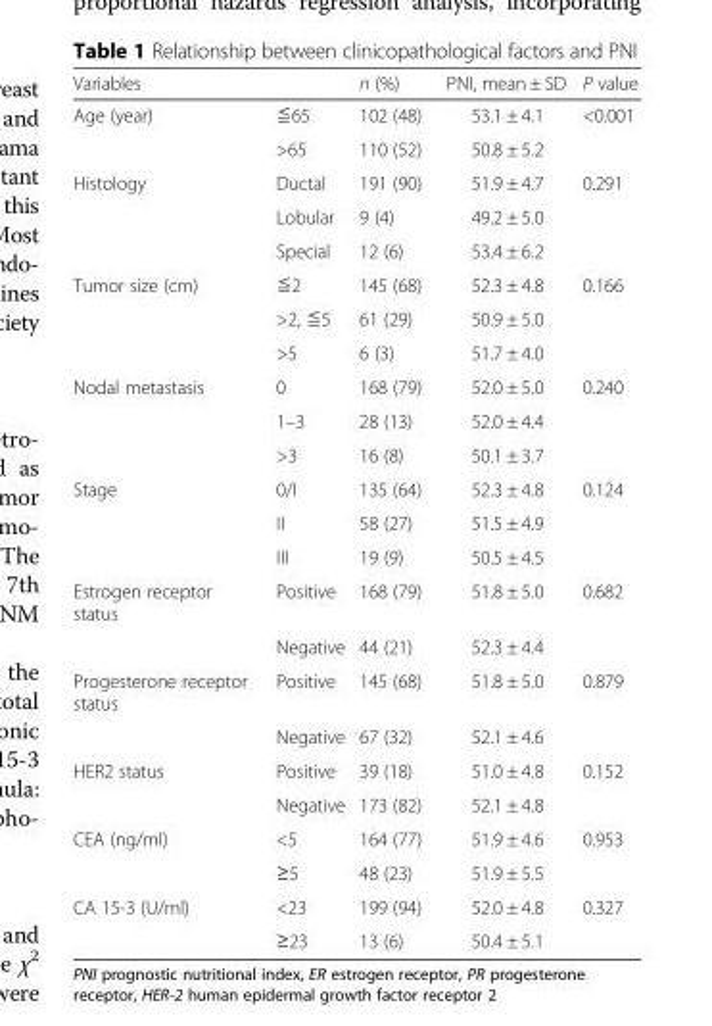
<table><thead><tr><td>Variables</td><td></td><td>n (%)</td><td>PNI, mean ± SD</td><td>P value</td></tr></thead><tbody><tr><td rowspan="2">Age (year)</td><td>≦65</td><td>102 (48)</td><td>53.1 ± 4.1</td><td>&lt;0.001</td></tr><tr><td>&gt;65</td><td>110 (52)</td><td>50.8 ± 5.2</td><td></td></tr><tr><td rowspan="3">Histology</td><td>Ductal</td><td>191 (90)</td><td>51.9 ± 4.7</td><td>0.291</td></tr><tr><td>Lobular</td><td>9 (4)</td><td>49.2 ± 5.0</td><td></td></tr><tr><td>Special</td><td>12 (6)</td><td>53.4 ± 6.2</td><td></td></tr><tr><td rowspan="3">Tumor size (cm)</td><td>≦2</td><td>145 (68)</td><td>52.3 ± 4.8</td><td>0.166</td></tr><tr><td>&gt;2, ≦5</td><td>61 (29)</td><td>50.9 ± 5.0</td><td></td></tr><tr><td>&gt;5</td><td>6 (3)</td><td>51.7 ± 4.0</td><td></td></tr><tr><td rowspan="3">Nodal metastasis</td><td>0</td><td>168 (79)</td><td>52.0 ± 5.0</td><td>0.240</td></tr><tr><td>1–3</td><td>28 (13)</td><td>52.0 ± 4.4</td><td></td></tr><tr><td>&gt;3</td><td>16 (8)</td><td>50.1 ± 3.7</td><td></td></tr><tr><td rowspan="3">Stage</td><td>0/I</td><td>135 (64)</td><td>52.3 ± 4.8</td><td>0.124</td></tr><tr><td>II</td><td>58 (27)</td><td>51.5 ± 4.9</td><td></td></tr><tr><td>III</td><td>19 (9)</td><td>50.5 ± 4.5</td><td></td></tr><tr><td rowspan="2">Estrogen receptor status</td><td>Positive</td><td>168 (79)</td><td>51.8 ± 5.0</td><td>0.682</td></tr><tr><td>Negative</td><td>44 (21)</td><td>52.3 ± 4.4</td><td></td></tr><tr><td rowspan="2">Progesterone receptor status</td><td>Positive</td><td>145 (68)</td><td>51.8 ± 5.0</td><td>0.879</td></tr><tr><td>Negative</td><td>67 (32)</td><td>52.1 ± 4.6</td><td></td></tr><tr><td rowspan="2">HER2 status</td><td>Positive</td><td>39 (18)</td><td>51.0 ± 4.8</td><td>0.152</td></tr><tr><td>Negative</td><td>173 (82)</td><td>52.1 ± 4.8</td><td></td></tr><tr><td rowspan="2">CEA (ng/ml)</td><td>&lt;5</td><td>164 (77)</td><td>51.9 ± 4.6</td><td>0.953</td></tr><tr><td>≥5</td><td>48 (23)</td><td>51.9 ± 5.5</td><td></td></tr><tr><td rowspan="2">CA 15-3 (U/ml)</td><td>&lt;23</td><td>199 (94)</td><td>52.0 ± 4.8</td><td>0.327</td></tr><tr><td>≥23</td><td>13 (6)</td><td>50.4 ± 5.1</td><td></td></tr></tbody></table>